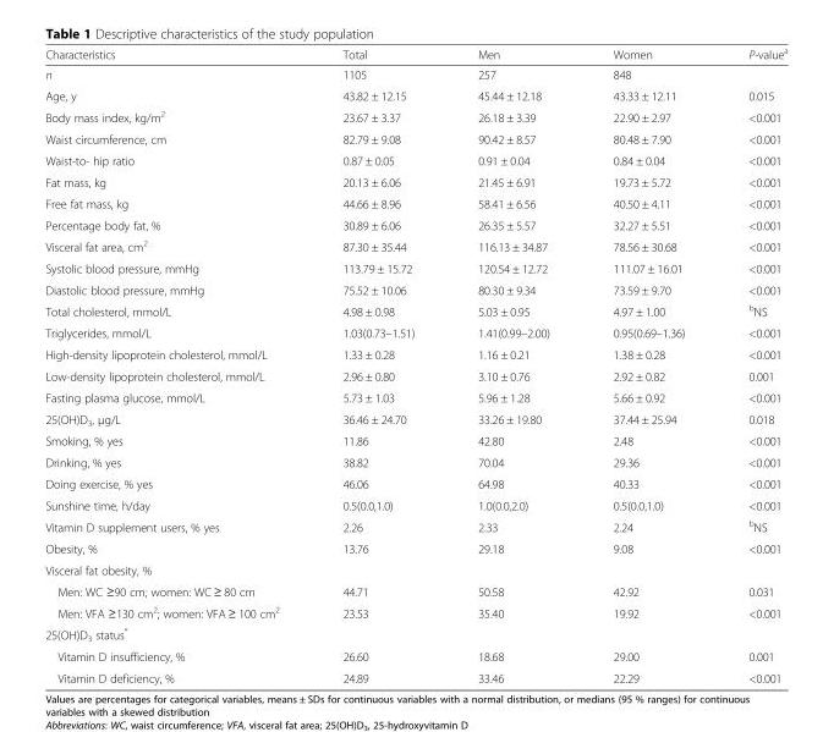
<table><thead><tr><td>Characteristics</td><td>Total</td><td>Men</td><td>Women</td><td>P-value<sup>a</sup></td></tr></thead><tbody><tr><td>n</td><td>1105</td><td>257</td><td>848</td><td></td></tr><tr><td>Age, y</td><td>43.82 ± 12.15</td><td>45.44 ± 12.18</td><td>43.33 ± 12.11</td><td>0.015</td></tr><tr><td>Body mass index, kg/m<sup>2</sup></td><td>23.67 ± 3.37</td><td>26.18 ± 3.39</td><td>22.90 ± 2.97</td><td>&lt;0.001</td></tr><tr><td>Waist circumference, cm</td><td>82.79 ± 9.08</td><td>90.42 ± 8.57</td><td>80.48 ± 7.90</td><td>&lt;0.001</td></tr><tr><td>Waist-to- hip ratio</td><td>0.87 ± 0.05</td><td>0.91 ± 0.04</td><td>0.84 ± 0.04</td><td>&lt;0.001</td></tr><tr><td>Fat mass, kg</td><td>20.13 ± 6.06</td><td>21.45 ± 6.91</td><td>19.73 ± 5.72</td><td>&lt;0.001</td></tr><tr><td>Free fat mass, kg</td><td>44.66 ± 8.96</td><td>58.41 ± 6.56</td><td>40.50 ± 4.11</td><td>&lt;0.001</td></tr><tr><td>Percentage body fat, %</td><td>30.89 ± 6.06</td><td>26.35 ± 5.57</td><td>32.27 ± 5.51</td><td>&lt;0.001</td></tr><tr><td>Visceral fat area, cm<sup>2</sup></td><td>87.30 ± 35.44</td><td>116.13 ± 34.87</td><td>78.56 ± 30.68</td><td>&lt;0.001</td></tr><tr><td>Systolic blood pressure, mmHg</td><td>113.79 ± 15.72</td><td>120.54 ± 12.72</td><td>111.07 ± 16.01</td><td>&lt;0.001</td></tr><tr><td>Diastolic blood pressure, mmHg</td><td>75.52 ± 10.06</td><td>80.30 ± 9.34</td><td>73.59 ± 9.70</td><td>&lt;0.001</td></tr><tr><td>Total cholesterol, mmol/L</td><td>4.98 ± 0.98</td><td>5.03 ± 0.95</td><td>4.97 ± 1.00</td><td><sup>b</sup>NS</td></tr><tr><td>Triglycerides, mmol/L</td><td>1.03(0.73–1.51)</td><td>1.41(0.99–2.00)</td><td>0.95(0.69–1.36)</td><td>&lt;0.001</td></tr><tr><td>High-density lipoprotein cholesterol, mmol/L</td><td>1.33 ± 0.28</td><td>1.16 ± 0.21</td><td>1.38 ± 0.28</td><td>&lt;0.001</td></tr><tr><td>Low-density lipoprotein cholesterol, mmol/L</td><td>2.96 ± 0.80</td><td>3.10 ± 0.76</td><td>2.92 ± 0.82</td><td>0.001</td></tr><tr><td>Fasting plasma glucose, mmol/L</td><td>5.73 ± 1.03</td><td>5.96 ± 1.28</td><td>5.66 ± 0.92</td><td>&lt;0.001</td></tr><tr><td>25(OH)D<sub>3</sub>, μg/L</td><td>36.46 ± 24.70</td><td>33.26 ± 19.80</td><td>37.44 ± 25.94</td><td>0.018</td></tr><tr><td>Smoking, % yes</td><td>11.86</td><td>42.80</td><td>2.48</td><td>&lt;0.001</td></tr><tr><td>Drinking, % yes</td><td>38.82</td><td>70.04</td><td>29.36</td><td>&lt;0.001</td></tr><tr><td>Doing exercise, % yes</td><td>46.06</td><td>64.98</td><td>40.33</td><td>&lt;0.001</td></tr><tr><td>Sunshine time, h/day</td><td>0.5(0.0,1.0)</td><td>1.0(0.0,2.0)</td><td>0.5(0.0,1.0)</td><td>&lt;0.001</td></tr><tr><td>Vitamin D supplement users, % yes</td><td>2.26</td><td>2.33</td><td>2.24</td><td><sup>b</sup>NS</td></tr><tr><td>Obesity, %</td><td>13.76</td><td>29.18</td><td>9.08</td><td>&lt;0.001</td></tr><tr><td colspan="5">Visceral fat obesity, %</td></tr><tr><td>Men: WC ≥90 cm; women: WC ≥ 80 cm</td><td>44.71</td><td>50.58</td><td>42.92</td><td>0.031</td></tr><tr><td>Men: VFA ≥130 cm<sup>2</sup>; women: VFA ≥ 100 cm<sup>2</sup></td><td>23.53</td><td>35.40</td><td>19.92</td><td>&lt;0.001</td></tr><tr><td colspan="5">25(OH)D<sub>3</sub> status*</td></tr><tr><td>Vitamin D insufficiency, %</td><td>26.60</td><td>18.68</td><td>29.00</td><td>0.001</td></tr><tr><td>Vitamin D deficiency, %</td><td>24.89</td><td>33.46</td><td>22.29</td><td>&lt;0.001</td></tr></tbody></table>